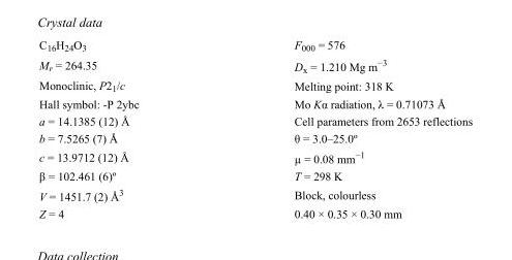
<table><tbody><tr><td>C<sub>16</sub>H<sub>24</sub>O<sub>3</sub></td><td>F000 = 576</td></tr><tr><td>M<sub>r</sub> = 264.35</td><td>D<sub>x</sub> = 1.210 Mg m<sup>−3</sup></td></tr><tr><td>Monoclinic, P2<sub>1</sub>/c</td><td>Melting point: 318 K</td></tr><tr><td>Hall symbol: -P 2ybc</td><td>Mo Kα radiation, λ = 0.71073 Å</td></tr><tr><td>a = 14.1385 (12) Å</td><td>Cell parameters from 2653 reflections</td></tr><tr><td>b = 7.5265 (7) Å</td><td>θ = 3.0–25.0º</td></tr><tr><td>c = 13.9712 (12) Å</td><td>µ = 0.08 mm<sup>−1</sup></td></tr><tr><td>β = 102.461 (6)º</td><td>T = 298 K</td></tr><tr><td>V = 1451.7 (2) Å<sup>3</sup></td><td>Block, colourless</td></tr><tr><td>Z = 4</td><td>0.40 × 0.35 × 0.30 mm</td></tr></tbody></table>